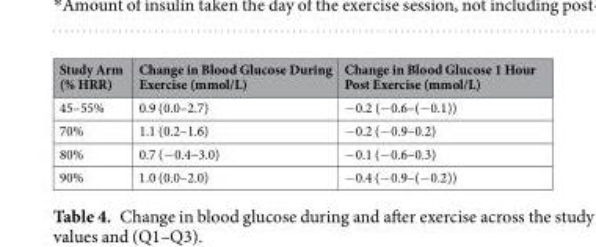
<table><thead><tr><td>Study Arm (% HRR)</td><td>Change in Blood Glucose During Exercise (mmol/L)</td><td>Change in Blood Glucose 1 Hour Post Exercise (mmol/L)</td></tr></thead><tbody><tr><td>45–55%</td><td>0.9 (0.0–2.7)</td><td>−0.2 (−0.6–(−0.1))</td></tr><tr><td>70%</td><td>1.1 (0.2–1.6)</td><td>−0.2 (−0.9–0.2)</td></tr><tr><td>80%</td><td>0.7 (−0.4–3.0)</td><td>−0.1 (−0.6–0.3)</td></tr><tr><td>90%</td><td>1.0 (0.0–2.0)</td><td>−0.4 (−0.9–(−0.2))</td></tr></tbody></table>